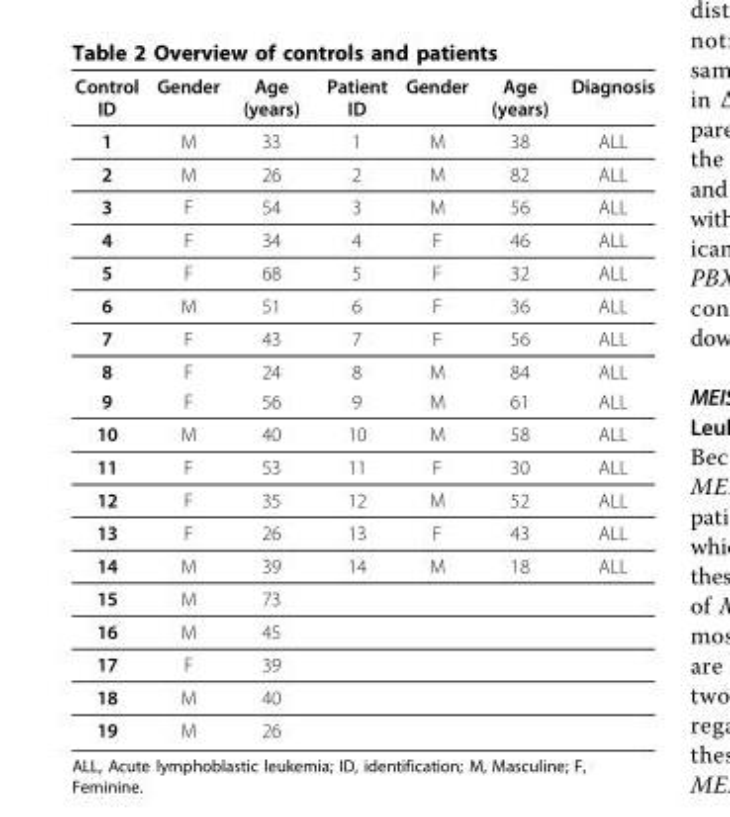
<table><thead><tr><td>Control ID</td><td>Gender</td><td>Age (years)</td><td>Patient ID</td><td>Gender</td><td>Age (years)</td><td>Diagnosis</td></tr></thead><tbody><tr><td>1</td><td>M</td><td>33</td><td>1</td><td>M</td><td>38</td><td>ALL</td></tr><tr><td>2</td><td>M</td><td>26</td><td>2</td><td>M</td><td>82</td><td>ALL</td></tr><tr><td>3</td><td>F</td><td>54</td><td>3</td><td>M</td><td>56</td><td>ALL</td></tr><tr><td>4</td><td>F</td><td>34</td><td>4</td><td>F</td><td>46</td><td>ALL</td></tr><tr><td>5</td><td>F</td><td>68</td><td>5</td><td>F</td><td>32</td><td>ALL</td></tr><tr><td>6</td><td>M</td><td>51</td><td>6</td><td>F</td><td>36</td><td>ALL</td></tr><tr><td>7</td><td>F</td><td>43</td><td>7</td><td>F</td><td>56</td><td>ALL</td></tr><tr><td>8</td><td>F</td><td>24</td><td>8</td><td>M</td><td>84</td><td>ALL</td></tr><tr><td>9</td><td>F</td><td>56</td><td>9</td><td>M</td><td>61</td><td>ALL</td></tr><tr><td>10</td><td>M</td><td>40</td><td>10</td><td>M</td><td>58</td><td>ALL</td></tr><tr><td>11</td><td>F</td><td>53</td><td>11</td><td>F</td><td>30</td><td>ALL</td></tr><tr><td>12</td><td>F</td><td>35</td><td>12</td><td>M</td><td>52</td><td>ALL</td></tr><tr><td>13</td><td>F</td><td>26</td><td>13</td><td>F</td><td>43</td><td>ALL</td></tr><tr><td>14</td><td>M</td><td>39</td><td>14</td><td>M</td><td>18</td><td>ALL</td></tr><tr><td>15</td><td>M</td><td>73</td><td></td><td></td><td></td><td></td></tr><tr><td>16</td><td>M</td><td>45</td><td></td><td></td><td></td><td></td></tr><tr><td>17</td><td>F</td><td>39</td><td></td><td></td><td></td><td></td></tr><tr><td>18</td><td>M</td><td>40</td><td></td><td></td><td></td><td></td></tr><tr><td>19</td><td>M</td><td>26</td><td></td><td></td><td></td><td></td></tr></tbody></table>